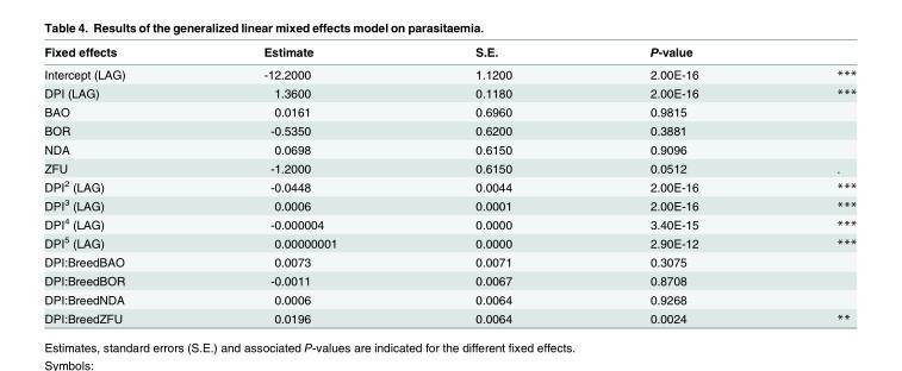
<table><thead><tr><td>Fixed effects</td><td>Estimate</td><td>S.E.</td><td>P-value</td><td></td></tr></thead><tbody><tr><td>Intercept (LAG)</td><td>-12.2000</td><td>1.1200</td><td>2.00E-16</td><td>***</td></tr><tr><td>DPI (LAG)</td><td>1.3600</td><td>0.1180</td><td>2.00E-16</td><td>***</td></tr><tr><td>BAO</td><td>0.0161</td><td>0.6960</td><td>0.9815</td><td></td></tr><tr><td>BOR</td><td>-0.5350</td><td>0.6200</td><td>0.3881</td><td></td></tr><tr><td>NDA</td><td>0.0698</td><td>0.6150</td><td>0.9096</td><td></td></tr><tr><td>ZFU</td><td>-1.2000</td><td>0.6150</td><td>0.0512</td><td>.</td></tr><tr><td>DPI<sup>2</sup> (LAG)</td><td>-0.0448</td><td>0.0044</td><td>2.00E-16</td><td>***</td></tr><tr><td>DPI<sup>3</sup> (LAG)</td><td>0.0006</td><td>0.0001</td><td>2.00E-16</td><td>***</td></tr><tr><td>DPI<sup>4</sup> (LAG)</td><td>-0.000004</td><td>0.0000</td><td>3.40E-15</td><td>***</td></tr><tr><td>DPI<sup>5</sup> (LAG)</td><td>0.00000001</td><td>0.0000</td><td>2.90E-12</td><td>***</td></tr><tr><td>DPI:BreedBAO</td><td>0.0073</td><td>0.0071</td><td>0.3075</td><td></td></tr><tr><td>DPI:BreedBOR</td><td>-0.0011</td><td>0.0067</td><td>0.8708</td><td></td></tr><tr><td>DPI:BreedNDA</td><td>0.0006</td><td>0.0064</td><td>0.9268</td><td></td></tr><tr><td>DPI:BreedZFU</td><td>0.0196</td><td>0.0064</td><td>0.0024</td><td>**</td></tr></tbody></table>